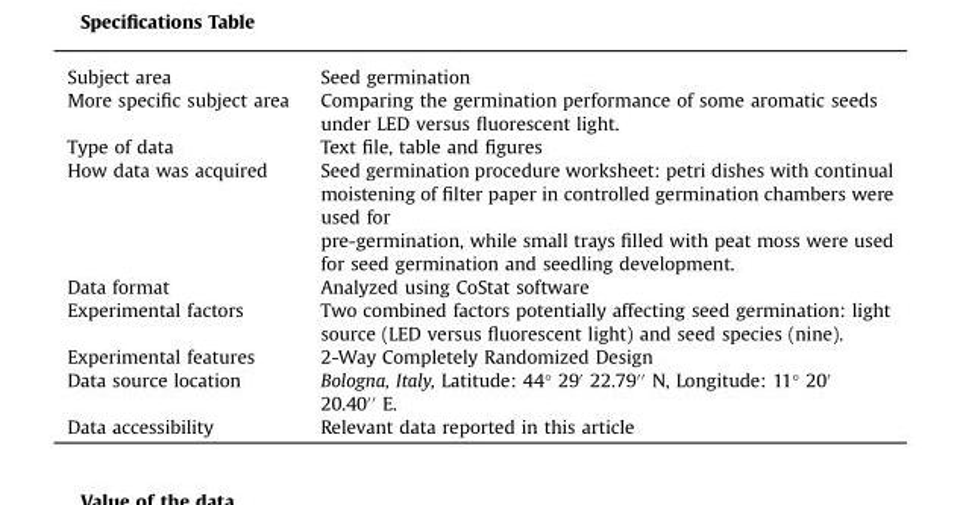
<table><tbody><tr><td>Subject area</td><td>Seed germination</td></tr><tr><td>More specific subject area</td><td>Comparing the germination performance of some aromatic seeds under LED versus fluorescent light.</td></tr><tr><td>Type of data</td><td>Text file, table and figures</td></tr><tr><td>How data was acquired</td><td>Seed germination procedure worksheet: petri dishes with continual moistening of filter paper in controlled germination chambers were used for pre-germination, while small trays filled with peat moss were used for seed germination and seedling development.</td></tr><tr><td>Data format</td><td>Analyzed using CoStat software</td></tr><tr><td>Experimental factors</td><td>Two combined factors potentially affecting seed germination: light source (LED versus fluorescent light) and seed species (nine).</td></tr><tr><td>Experimental features</td><td>2-Way Completely Randomized Design</td></tr><tr><td>Data source location</td><td>Bologna, Italy, Latitude: 44° 29′ 22.79′′ N, Longitude: 11° 20′ 20.40′′ E.</td></tr><tr><td>Data accessibility</td><td>Relevant data reported in this article</td></tr></tbody></table>